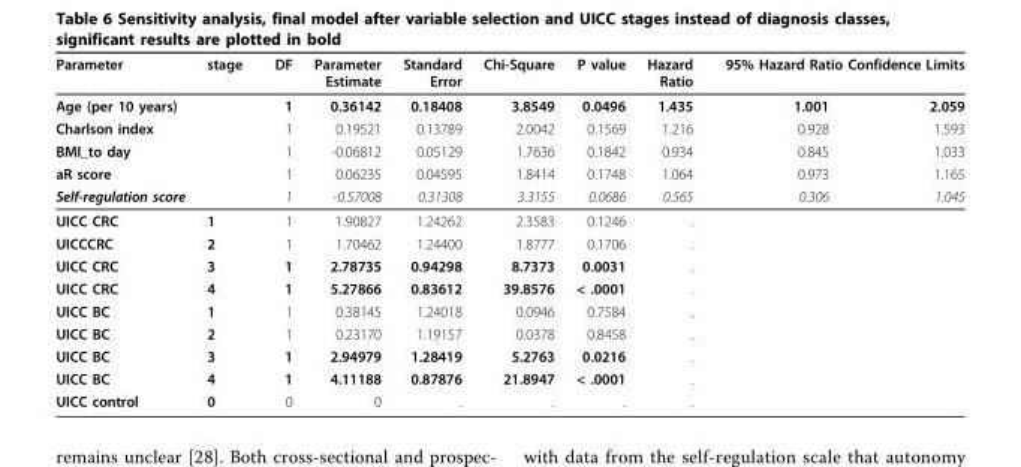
<table><thead><tr><td rowspan="2">Parameter Age (per 10 years)</td><td rowspan="2">stage</td><td rowspan="2">DF 1</td><td rowspan="2">Parameter Estimate 0.36142</td><td rowspan="2">Standard Error 0.18408</td><td rowspan="2">Chi-Square 3.8549</td><td rowspan="2">P value 0.0496</td><td rowspan="2">Hazard Ratio 1.435</td><td colspan="2">95% Hazard Ratio Confidence Limits</td></tr><tr><td>1.001</td><td>2.059</td></tr></thead><tbody><tr><td>Charlson index</td><td></td><td>1</td><td>0.19521</td><td>0.13789</td><td>2.0042</td><td>0.1569</td><td>1.216</td><td>0.928</td><td>1.593</td></tr><tr><td>BMI_to day</td><td></td><td>1</td><td>-0.06812</td><td>0.05129</td><td>1.7636</td><td>0.1842</td><td>0.934</td><td>0.845</td><td>1.033</td></tr><tr><td>aR score</td><td></td><td>1</td><td>0.06235</td><td>0.04595</td><td>1.8414</td><td>0.1748</td><td>1.064</td><td>0.973</td><td>1.165</td></tr><tr><td>Self-regulation score</td><td></td><td>1</td><td>-0.57008</td><td>0.31308</td><td>3.3155</td><td>0.0686</td><td>0.565</td><td>0.306</td><td>1.045</td></tr><tr><td>UICC CRC</td><td>1</td><td>1</td><td>1.90827</td><td>1.24262</td><td>2.3583</td><td>0.1246</td><td>.</td><td></td><td></td></tr><tr><td>UICCCRC</td><td>2</td><td>1</td><td>1.70462</td><td>1.24400</td><td>1.8777</td><td>0.1706</td><td>.</td><td></td><td></td></tr><tr><td>UICC CRC</td><td>3</td><td>1</td><td>2.78735</td><td>0.94298</td><td>8.7373</td><td>0.0031</td><td>.</td><td></td><td></td></tr><tr><td>UICC CRC</td><td>4</td><td>1</td><td>5.27866</td><td>0.83612</td><td>39.8576</td><td>&lt; .0001</td><td>.</td><td></td><td></td></tr><tr><td>UICC BC</td><td>1</td><td>1</td><td>0.38145</td><td>1.24018</td><td>0.0946</td><td>0.7584</td><td>.</td><td></td><td></td></tr><tr><td>UICC BC</td><td>2</td><td>1</td><td>0.23170</td><td>1.19157</td><td>0.0378</td><td>0.8458</td><td>.</td><td></td><td></td></tr><tr><td>UICC BC</td><td>3</td><td>1</td><td>2.94979</td><td>1.28419</td><td>5.2763</td><td>0.0216</td><td>.</td><td></td><td></td></tr><tr><td>UICC BC</td><td>4</td><td>1</td><td>4.11188</td><td>0.87876</td><td>21.8947</td><td>&lt; .0001</td><td>.</td><td></td><td></td></tr><tr><td>UICC control</td><td>0</td><td>0</td><td>0</td><td>.</td><td>.</td><td>.</td><td>.</td><td></td><td></td></tr></tbody></table>